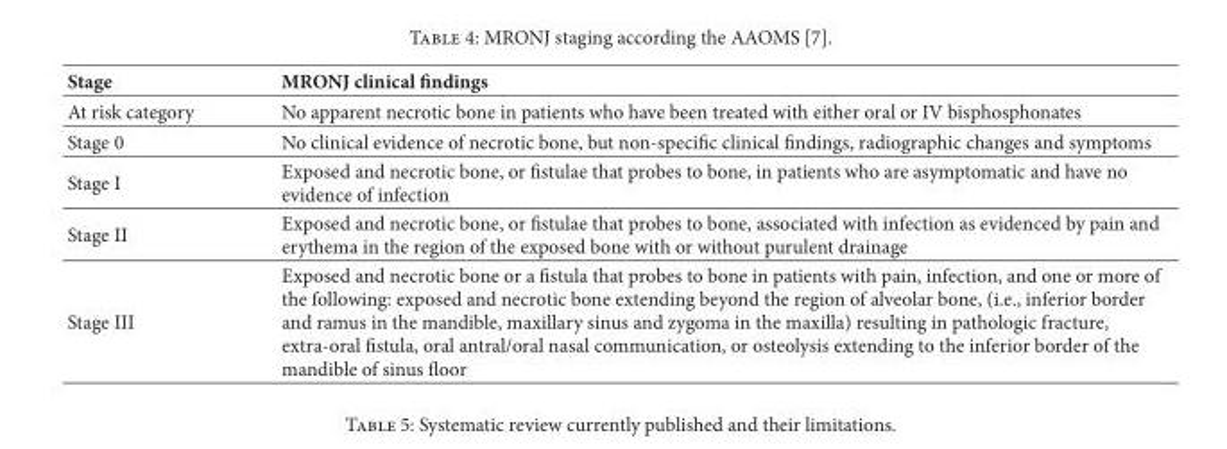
<table><thead><tr><td>Stage</td><td>MRONJ clinical findings</td></tr></thead><tbody><tr><td>At risk category</td><td>No apparent necrotic bone in patients who have been treated with either oral or IV bisphosphonates</td></tr><tr><td>Stage 0</td><td>No clinical evidence of necrotic bone, but non-specific clinical findings, radiographic changes and symptoms</td></tr><tr><td>Stage I</td><td>Exposed and necrotic bone, or fistulae that probes to bone, in patients who are asymptomatic and have no evidence of infection</td></tr><tr><td>Stage II</td><td>Exposed and necrotic bone, or fistulae that probes to bone, associated with infection as evidenced by pain and erythema in the region of the exposed bone with or without purulent drainage</td></tr><tr><td>Stage III</td><td>Exposed and necrotic bone or a fistula that probes to bone in patients with pain, infection, and one or more of the following: exposed and necrotic bone extending beyond the region of alveolar bone, (i.e., inferior border and ramus in the mandible, maxillary sinus and zygoma in the maxilla) resulting in pathologic fracture, extra-oral fistula, oral antral/oral nasal communication, or osteolysis extending to the inferior border of the mandible of sinus floor</td></tr></tbody></table>